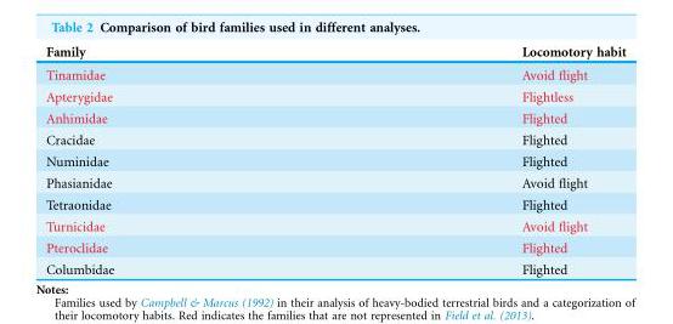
<table><thead><tr><td>Family</td><td>Locomotory habit</td></tr></thead><tbody><tr><td>Tinamidae</td><td>Avoid flight</td></tr><tr><td>Apterygidae</td><td>Flightless</td></tr><tr><td>Anhimidae</td><td>Flighted</td></tr><tr><td>Cracidae</td><td>Flighted</td></tr><tr><td>Numinidae</td><td>Flighted</td></tr><tr><td>Phasianidae</td><td>Avoid flight</td></tr><tr><td>Tetraonidae</td><td>Flighted</td></tr><tr><td>Turnicidae</td><td>Avoid flight</td></tr><tr><td>Pteroclidae</td><td>Flighted</td></tr><tr><td>Columbidae</td><td>Flighted</td></tr></tbody></table>